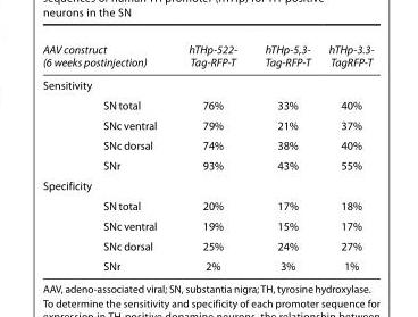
<table><thead><tr><td colspan="2">AAV construct (6 weeks postinjection)</td><td rowspan="2">hTHp-522- Tag-RFP-T</td><td rowspan="2">hTHp-5,3- Tag-RFP-T</td><td rowspan="2">hTHp-3.3- TagRFP-T</td></tr><tr><td>Sensitivity</td><td></td></tr></thead><tbody><tr><td rowspan="4"></td><td>SN total</td><td>76%</td><td>33%</td><td>40%</td></tr><tr><td>SNc ventral</td><td>79%</td><td>21%</td><td>37%</td></tr><tr><td>SNc dorsal</td><td>74%</td><td>38%</td><td>40%</td></tr><tr><td>SNr</td><td>93%</td><td>43%</td><td>55%</td></tr><tr><td colspan="5">Specificity</td></tr><tr><td rowspan="4"></td><td>SN total</td><td>20%</td><td>17%</td><td>18%</td></tr><tr><td>SNc ventral</td><td>19%</td><td>15%</td><td>17%</td></tr><tr><td>SNc dorsal</td><td>25%</td><td>24%</td><td>27%</td></tr><tr><td>SNr</td><td>2%</td><td>3%</td><td>1%</td></tr></tbody></table>